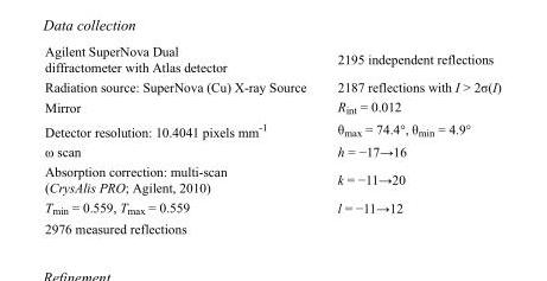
<table><tbody><tr><td>Agilent SuperNova Dual diffractometer with Atlas detector</td><td>2195 independent reflections</td></tr><tr><td>Radiation source: SuperNova (Cu) X-ray Source</td><td>2187 reflections with I &gt; 2σ(I)</td></tr><tr><td>Mirror</td><td>R<sub>int</sub> = 0.012</td></tr><tr><td>Detector resolution: 10.4041 pixels mm<sup>-1</sup></td><td>θ<sub>max</sub> = 74.4°, θ<sub>min</sub> = 4.9°</td></tr><tr><td>ω scan</td><td>h = −17→16</td></tr><tr><td>Absorption correction: multi-scan (CrysAlis PRO; Agilent, 2010)</td><td>k = −11→20</td></tr><tr><td>T<sub>min</sub> = 0.559, T<sub>max</sub> = 0.559</td><td>l = −11→12</td></tr><tr><td>2976 measured reflections</td><td></td></tr></tbody></table>